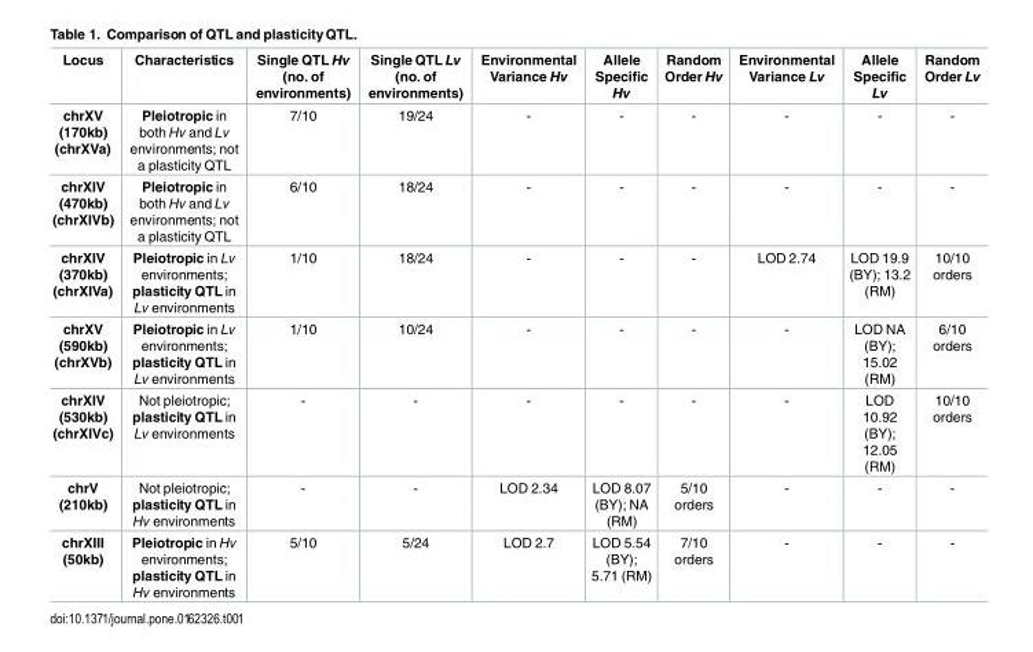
<table><thead><tr><td>Locus</td><td>Characteristics</td><td>Single QTL Hv (no. of environments)</td><td>Single QTL Lv (no. of environments)</td><td>Environmental Variance Hv</td><td>Allele Specific Hv</td><td>Random Order Hv</td><td>Environmental Variance Lv</td><td>Allele Specific Lv</td><td>Random Order Lv</td></tr></thead><tbody><tr><td>chrXV (170kb) (chrXVa)</td><td>Pleiotropic in both Hv and Lv environments; not a plasticity QTL</td><td>7/10</td><td>19/24</td><td>-</td><td>-</td><td>-</td><td>-</td><td>-</td><td>-</td></tr><tr><td>chrXIV (470kb) (chrXIVb)</td><td>Pleiotropic in both Hv and Lv environments; not a plasticity QTL</td><td>6/10</td><td>18/24</td><td>-</td><td>-</td><td>-</td><td>-</td><td>-</td><td>-</td></tr><tr><td>chrXIV (370kb) (chrXIVa)</td><td>Pleiotropic in Lv environments; plasticity QTL in Lv environments</td><td>1/10</td><td>18/24</td><td>-</td><td>-</td><td>-</td><td>LOD 2.74</td><td>LOD 19.9 (BY); 13.2 (RM)</td><td>10/10 orders</td></tr><tr><td>chrXV (590kb) (chrXVb)</td><td>Pleiotropic in Lv environments; plasticity QTL in Lv environments</td><td>1/10</td><td>10/24</td><td>-</td><td>-</td><td>-</td><td>-</td><td>LOD NA (BY); 15.02 (RM)</td><td>6/10 orders</td></tr><tr><td>chrXIV (530kb) (chrXIVc)</td><td>Not pleiotropic; plasticity QTL in Lv environments</td><td>-</td><td>-</td><td>-</td><td>-</td><td>-</td><td>-</td><td>LOD 10.92 (BY); 12.05 (RM)</td><td>10/10 orders</td></tr><tr><td>chrV (210kb)</td><td>Not pleiotropic; plasticity QTL in Hv environments</td><td>-</td><td>-</td><td>LOD 2.34</td><td>LOD 8.07 (BY); NA (RM)</td><td>5/10 orders</td><td>-</td><td>-</td><td>-</td></tr><tr><td>chrXIII (50kb)</td><td>Pleiotropic in Hv environments; plasticity QTL in Hv environments</td><td>5/10</td><td>5/24</td><td>LOD 2.7</td><td>LOD 5.54 (BY); 5.71 (RM)</td><td>7/10 orders</td><td>-</td><td>-</td><td>-</td></tr></tbody></table>